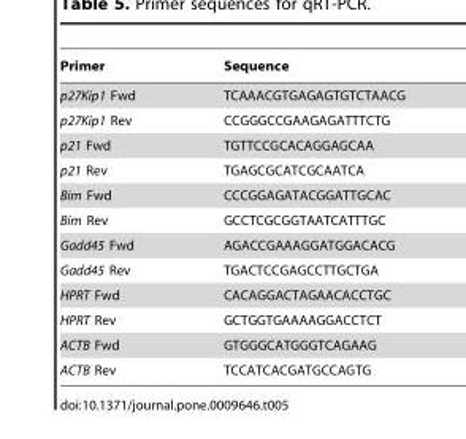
<table><thead><tr><td>Primer</td><td>Sequence</td></tr></thead><tbody><tr><td>p27Kip1 Fwd</td><td>TCAAACGTGAGAGTGTCTAACG</td></tr><tr><td>p27Kip1 Rev</td><td>CCGGGCCGAAGAGATTTCTG</td></tr><tr><td>p21 Fwd</td><td>TGTTCCGCACAGGAGCAA</td></tr><tr><td>p21 Rev</td><td>TGAGCGCATCGCAATCA</td></tr><tr><td>Bim Fwd</td><td>CCCGGAGATACGGATTGCAC</td></tr><tr><td>Bim Rev</td><td>GCCTCGCGGTAATCATTTGC</td></tr><tr><td>Gadd45 Fwd</td><td>AGACCGAAAGGATGGACACG</td></tr><tr><td>Gadd45 Rev</td><td>TGACTCCGAGCCTTGCTGA</td></tr><tr><td>HPRT Fwd</td><td>CACAGGACTAGAACACCTGC</td></tr><tr><td>HPRT Rev</td><td>GCTGGTGAAAAGGACCTCT</td></tr><tr><td>ACTB Fwd</td><td>GTGGGCATGGGTCAGAAG</td></tr><tr><td>ACTB Rev</td><td>TCCATCACGATGCCAGTG</td></tr></tbody></table>